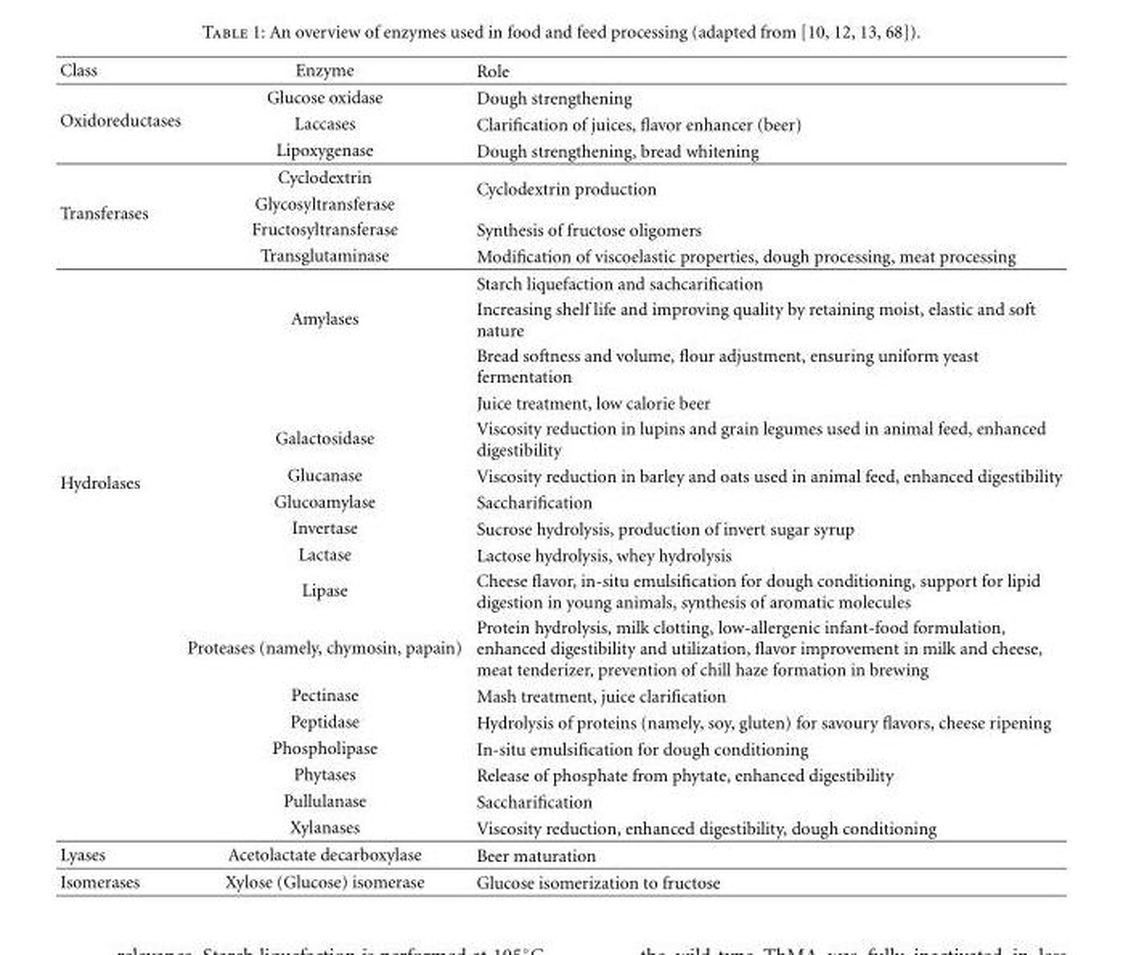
<table><thead><tr><td>Class</td><td>Enzyme</td><td>Role</td></tr></thead><tbody><tr><td rowspan="3">Oxidoreductases</td><td>Glucose oxidase</td><td>Dough strengthening</td></tr><tr><td>Laccases</td><td>Clarification of juices, flavor enhancer (beer)</td></tr><tr><td>Lipoxygenase</td><td>Dough strengthening, bread whitening</td></tr><tr><td rowspan="4">Transferases</td><td>Cyclodextrin</td><td rowspan="2">Cyclodextrin production</td></tr><tr><td>Glycosyltransferase</td></tr><tr><td>Fructosyltransferase</td><td>Synthesis of fructose oligomers</td></tr><tr><td>Transglutaminase</td><td>Modification of viscoelastic properties, dough processing, meat processing</td></tr><tr><td rowspan="17">Hydrolases</td><td rowspan="4">Amylases</td><td>Starch liquefaction and sachcarification</td></tr><tr><td>Increasing shelf life and improving quality by retaining moist, elastic and soft nature</td></tr><tr><td>Bread softness and volume, flour adjustment, ensuring uniform yeast fermentation</td></tr><tr><td>Juice treatment, low calorie beer</td></tr><tr><td>Galactosidase</td><td>Viscosity reduction in lupins and grain legumes used in animal feed, enhanced digestibility</td></tr><tr><td>Glucanase</td><td>Viscosity reduction in barley and oats used in animal feed, enhanced digestibility</td></tr><tr><td>Glucoamylase</td><td>Saccharification</td></tr><tr><td>Invertase</td><td>Sucrose hydrolysis, production of invert sugar syrup</td></tr><tr><td>Lactase</td><td>Lactose hydrolysis, whey hydrolysis</td></tr><tr><td>Lipase</td><td>Cheese flavor, in-situ emulsification for dough conditioning, support for lipid digestion in young animals, synthesis of aromatic molecules</td></tr><tr><td>Proteases (namely, chymosin, papain)</td><td>Protein hydrolysis, milk clotting, low-allergenic infant-food formulation, enhanced digestibility and utilization, flavor improvement in milk and cheese, meat tenderizer, prevention of chill haze formation in brewing</td></tr><tr><td>Pectinase</td><td>Mash treatment, juice clarification</td></tr><tr><td>Peptidase</td><td>Hydrolysis of proteins (namely, soy, gluten) for savoury flavors, cheese ripening</td></tr><tr><td>Phospholipase</td><td>In-situ emulsification for dough conditioning</td></tr><tr><td>Phytases</td><td>Release of phosphate from phytate, enhanced digestibility</td></tr><tr><td>Pullulanase</td><td>Saccharification</td></tr><tr><td>Xylanases</td><td>Viscosity reduction, enhanced digestibility, dough conditioning</td></tr><tr><td>Lyases</td><td>Acetolactate decarboxylase</td><td>Beer maturation</td></tr><tr><td>Isomerases</td><td>Xylose (Glucose) isomerase</td><td>Glucose isomerization to fructose</td></tr></tbody></table>